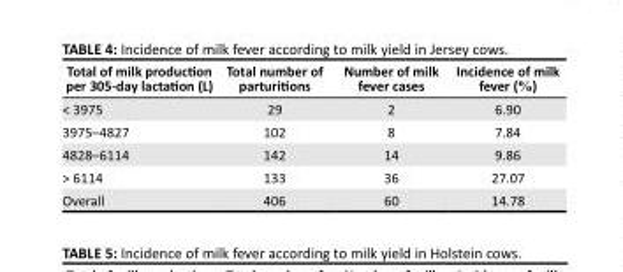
<table><thead><tr><td>Total of milk production per 305-day lactation (L)</td><td>Total number of parturitions</td><td>Number of milk fever cases</td><td>Incidence of milk fever (%)</td></tr></thead><tbody><tr><td>&lt; 3975</td><td>29</td><td>2</td><td>6.90</td></tr><tr><td>3975–4827</td><td>102</td><td>8</td><td>7.84</td></tr><tr><td>4828–6114</td><td>142</td><td>14</td><td>9.86</td></tr><tr><td>&gt; 6114</td><td>133</td><td>36</td><td>27.07</td></tr><tr><td>Overall</td><td>406</td><td>60</td><td>14.78</td></tr></tbody></table>